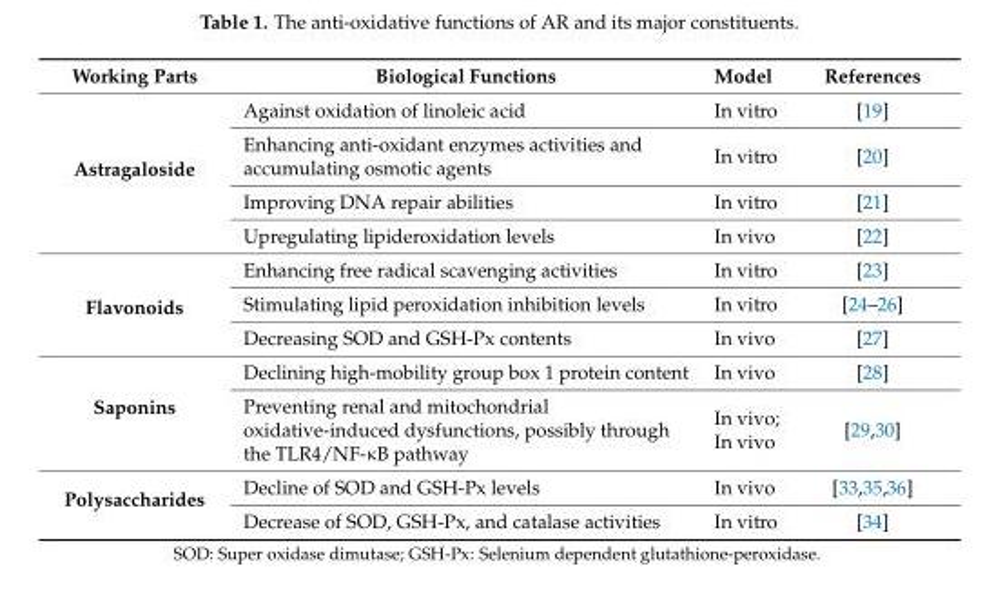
<table><thead><tr><td>Working Parts</td><td>Biological Functions</td><td>Model</td><td>References</td></tr></thead><tbody><tr><td rowspan="4">Astragaloside</td><td>Against oxidation of linoleic acid</td><td>In vitro</td><td>[19]</td></tr><tr><td>Enhancing anti-oxidant enzymes activities and accumulating osmotic agents</td><td>In vitro</td><td>[20]</td></tr><tr><td>Improving DNA repair abilities</td><td>In vitro</td><td>[21]</td></tr><tr><td>Upregulating lipideroxidation levels</td><td>In vivo</td><td>[22]</td></tr><tr><td rowspan="3">Flavonoids</td><td>Enhancing free radical scavenging activities</td><td>In vitro</td><td>[23]</td></tr><tr><td>Stimulating lipid peroxidation inhibition levels</td><td>In vitro</td><td>[24–26]</td></tr><tr><td>Decreasing SOD and GSH-Px contents</td><td>In vivo</td><td>[27]</td></tr><tr><td rowspan="2">Saponins</td><td>Declining high-mobility group box 1 protein content</td><td>In vivo</td><td>[28]</td></tr><tr><td>Preventing renal and mitochondrial oxidative-induced dysfunctions, possibly through the TLR4/NF-κB pathway</td><td>In vivo; In vivo</td><td>[29,30]</td></tr><tr><td rowspan="2">Polysaccharides</td><td>Decline of SOD and GSH-Px levels</td><td>In vivo</td><td>[33,35,36]</td></tr><tr><td>Decrease of SOD, GSH-Px, and catalase activities</td><td>In vitro</td><td>[34]</td></tr></tbody></table>